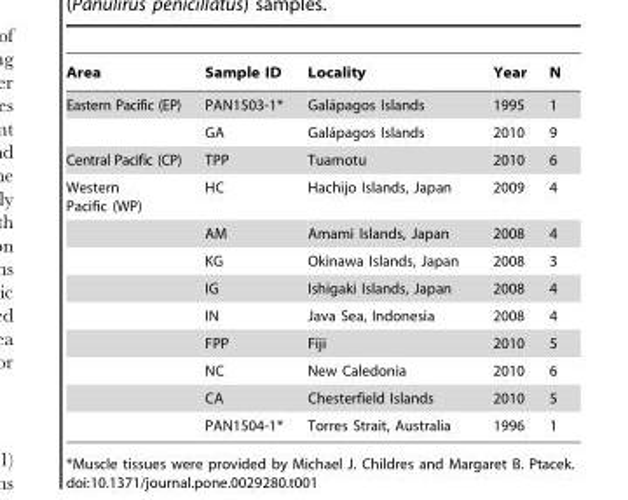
<table><thead><tr><td>Area</td><td>Sample ID</td><td>Locality</td><td>Year</td><td>N</td></tr></thead><tbody><tr><td rowspan="2">Eastern Pacific (EP)</td><td>PAN1503-1*</td><td>Gala´pagos Islands</td><td>1995</td><td>1</td></tr><tr><td>GA</td><td>Gala´pagos Islands</td><td>2010</td><td>9</td></tr><tr><td>Central Pacific (CP)</td><td>TPP</td><td>Tuamotu</td><td>2010</td><td>6</td></tr><tr><td rowspan="9">Western Pacific (WP)</td><td>HC</td><td>Hachijo Islands, Japan</td><td>2009</td><td>4</td></tr><tr><td>AM</td><td>Amami Islands, Japan</td><td>2008</td><td>4</td></tr><tr><td>KG</td><td>Okinawa Islands, Japan</td><td>2008</td><td>3</td></tr><tr><td>IG</td><td>Ishigaki Islands, Japan</td><td>2008</td><td>4</td></tr><tr><td>IN</td><td>Java Sea, Indonesia</td><td>2008</td><td>4</td></tr><tr><td>FPP</td><td>Fiji</td><td>2010</td><td>5</td></tr><tr><td>NC</td><td>New Caledonia</td><td>2010</td><td>6</td></tr><tr><td>CA</td><td>Chesterfield Islands</td><td>2010</td><td>5</td></tr><tr><td>PAN1504-1*</td><td>Torres Strait, Australia</td><td>1996</td><td>1</td></tr></tbody></table>